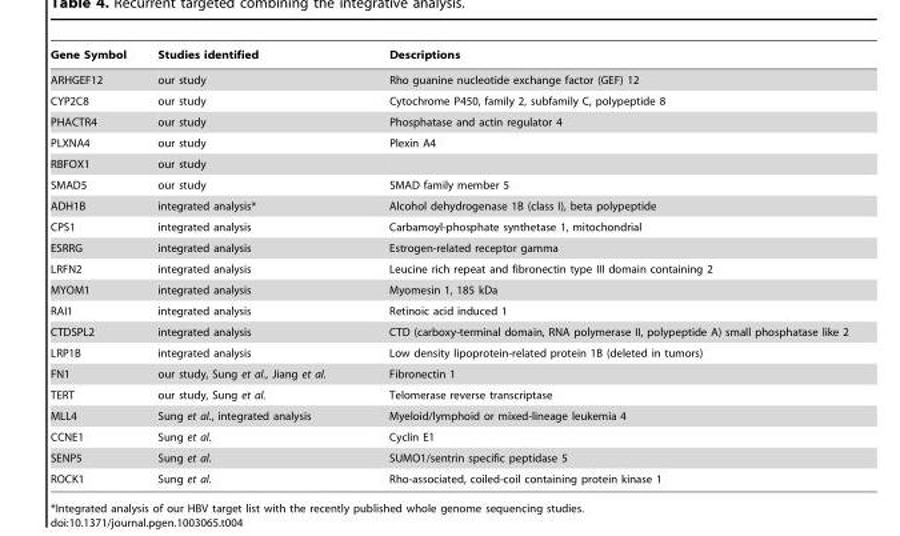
<table><thead><tr><td>Gene Symbol</td><td>Studies identified</td><td>Descriptions</td></tr></thead><tbody><tr><td>ARHGEF12</td><td>our study</td><td>Rho guanine nucleotide exchange factor (GEF) 12</td></tr><tr><td>CYP2C8</td><td>our study</td><td>Cytochrome P450, family 2, subfamily C, polypeptide 8</td></tr><tr><td>PHACTR4</td><td>our study</td><td>Phosphatase and actin regulator 4</td></tr><tr><td>PLXNA4</td><td>our study</td><td>Plexin A4</td></tr><tr><td>RBFOX1</td><td>our study</td><td></td></tr><tr><td>SMAD5</td><td>our study</td><td>SMAD family member 5</td></tr><tr><td>ADH1B</td><td>integrated analysis*</td><td>Alcohol dehydrogenase 1B (class I), beta polypeptide</td></tr><tr><td>CPS1</td><td>integrated analysis</td><td>Carbamoyl-phosphate synthetase 1, mitochondrial</td></tr><tr><td>ESRRG</td><td>integrated analysis</td><td>Estrogen-related receptor gamma</td></tr><tr><td>LRFN2</td><td>integrated analysis</td><td>Leucine rich repeat and fibronectin type III domain containing 2</td></tr><tr><td>MYOM1</td><td>integrated analysis</td><td>Myomesin 1, 185 kDa</td></tr><tr><td>RAI1</td><td>integrated analysis</td><td>Retinoic acid induced 1</td></tr><tr><td>CTDSPL2</td><td>integrated analysis</td><td>CTD (carboxy-terminal domain, RNA polymerase II, polypeptide A) small phosphatase like 2</td></tr><tr><td>LRP1B</td><td>integrated analysis</td><td>Low density lipoprotein-related protein 1B (deleted in tumors)</td></tr><tr><td>FN1</td><td>our study, Sung et al., Jiang et al.</td><td>Fibronectin 1</td></tr><tr><td>TERT</td><td>our study, Sung et al.</td><td>Telomerase reverse transcriptase</td></tr><tr><td>MLL4</td><td>Sung et al., integrated analysis</td><td>Myeloid/lymphoid or mixed-lineage leukemia 4</td></tr><tr><td>CCNE1</td><td>Sung et al.</td><td>Cyclin E1</td></tr><tr><td>SENP5</td><td>Sung et al.</td><td>SUMO1/sentrin specific peptidase 5</td></tr><tr><td>ROCK1</td><td>Sung et al.</td><td>Rho-associated, coiled-coil containing protein kinase 1</td></tr></tbody></table>